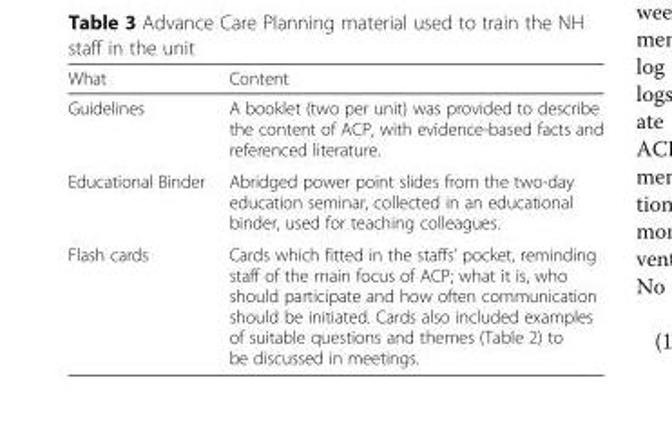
<table><thead><tr><td>What</td><td>Content</td></tr></thead><tbody><tr><td>Guidelines</td><td>A booklet (two per unit) was provided to describe the content of ACP, with evidence-based facts and referenced literature.</td></tr><tr><td>Educational Binder</td><td>Abridged power point slides from the two-day education seminar, collected in an educational binder, used for teaching colleagues.</td></tr><tr><td>Flash cards</td><td>Cards which fitted in the staffs’ pocket, reminding staff of the main focus of ACP; what it is, who should participate and how often communication should be initiated. Cards also included examples of suitable questions and themes (Table 2) to be discussed in meetings.</td></tr></tbody></table>